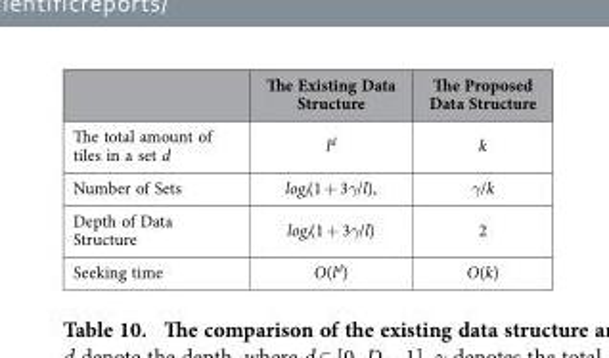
<table><thead><tr><td></td><td>The Existing Data Structure</td><td>The Proposed Data Structure</td></tr></thead><tbody><tr><td>The total amount of tiles in a set d</td><td>l<sup>d</sup></td><td>k</td></tr><tr><td>Number of Sets</td><td>log<sub>l</sub>(1 + 3γ/l),</td><td>γ/k</td></tr><tr><td>Depth of Data Structure</td><td>log<sub>l</sub>(1 + 3γ/l)</td><td>2</td></tr><tr><td>Seeking time</td><td>O(l<sup>d</sup>)</td><td>O(k)</td></tr></tbody></table>